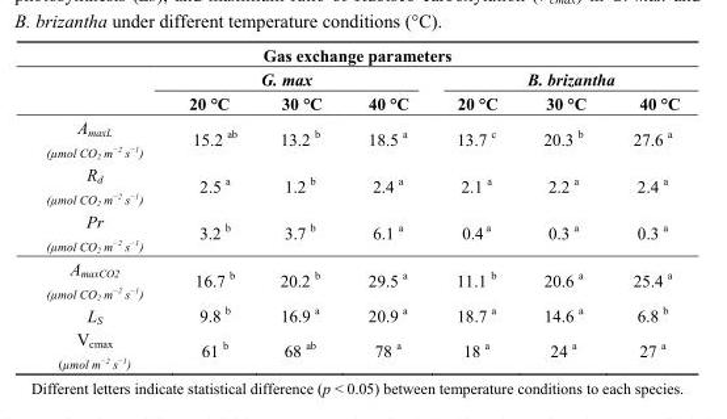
<table><thead><tr><td colspan="7">Gas exchange parameters</td></tr><tr><td rowspan="2"></td><td colspan="3">G. max</td><td colspan="3">B. brizantha</td></tr><tr><td>20 °C</td><td>30 °C</td><td>40 °C</td><td>20 °C</td><td>30 °C</td><td>40 °C</td></tr></thead><tbody><tr><td>A<sub>maxL</sub> (µmol CO<sub>2</sub> m<sup>−2</sup> s<sup>−1</sup>)</td><td>15.2 <sup>ab</sup></td><td>13.2 <sup>b</sup></td><td>18.5 <sup>a</sup></td><td>13.7 <sup>c</sup></td><td>20.3 <sup>b</sup></td><td>27.6 <sup>a</sup></td></tr><tr><td>R<sub>d</sub> (µmol CO<sub>2</sub> m−2 s<sup>−1</sup>)</td><td>2.5 <sup>a</sup></td><td>1.2 <sup>b</sup></td><td>2.4 <sup>a</sup></td><td>2.1 <sup>a</sup></td><td>2.2 <sup>a</sup></td><td>2.4 <sup>a</sup></td></tr><tr><td>P<sub>r</sub> (µmol CO<sub>2</sub> m−2 s<sup>−1</sup>)</td><td>3.2 <sup>b</sup></td><td>3.7 <sup>b</sup></td><td>6.1 <sup>a</sup></td><td>0.4 <sup>a</sup></td><td>0.3 <sup>a</sup></td><td>0.3 <sup>a</sup></td></tr><tr><td>A<sub>maxCO2</sub> (µmol CO<sub>2</sub> m−2 s<sup>−1</sup>)</td><td>16.7 <sup>b</sup></td><td>20.2 <sup>b</sup></td><td>29.5 <sup>a</sup></td><td>11.1 <sup>b</sup></td><td>20.6 <sup>a</sup></td><td>25.4 <sup>a</sup></td></tr><tr><td>L<sub>S</sub></td><td>9.8 <sup>b</sup></td><td>16.9 <sup>a</sup></td><td>20.9 <sup>a</sup></td><td>18.7 <sup>a</sup></td><td>14.6 <sup>a</sup></td><td>6.8 <sup>b</sup></td></tr><tr><td>V<sub>cmax</sub> (µmol m−2 s<sup>−1</sup>)</td><td>61 <sup>b</sup></td><td>68 <sup>ab</sup></td><td>78 <sup>a</sup></td><td>18 <sup>a</sup></td><td>24 <sup>a</sup></td><td>27 <sup>a</sup></td></tr></tbody></table>